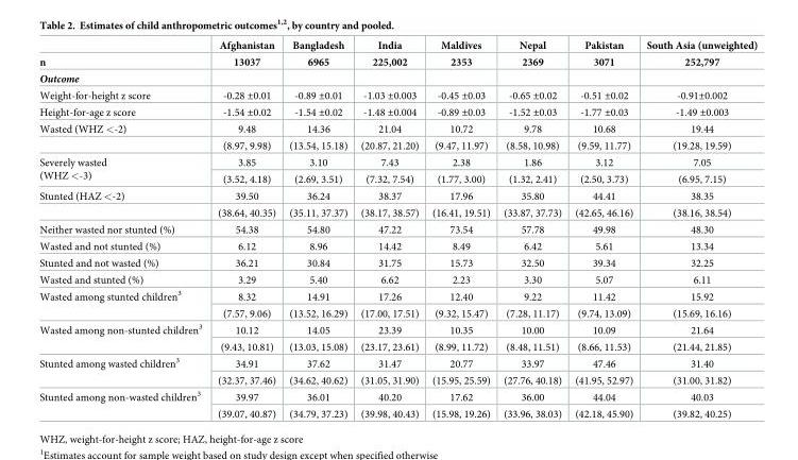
<table><thead><tr><td rowspan="3">n Outcome</td><td rowspan="3">Afghanistan 13037</td><td rowspan="3">Bangladesh 6965</td><td rowspan="3">India 225,002</td><td rowspan="3">Maldives 2353</td><td rowspan="3">Nepal 2369</td><td rowspan="3">Pakistan 3071</td><td rowspan="3">South Asia (unweighted) 252,797</td></tr><tr></tr><tr></tr></thead><tbody><tr><td>Weight-for-height z score</td><td>-0.28 ±0.01</td><td>-0.89 ±0.01</td><td>-1.03 ±0.003</td><td>-0.45 ±0.03</td><td>-0.65 ±0.02</td><td>-0.51 ±0.02</td><td>-0.91±0.002</td></tr><tr><td>Height-for-age z score</td><td>-1.54 ±0.02</td><td>-1.54 ±0.02</td><td>-1.48 ±0.004</td><td>-0.89 ±0.03</td><td>-1.52 ±0.03</td><td>-1.77 ±0.03</td><td>-1.49 ±0.003</td></tr><tr><td rowspan="2">Wasted (WHZ &lt;-2)</td><td>9.48</td><td>14.36</td><td>21.04</td><td>10.72</td><td>9.78</td><td>10.68</td><td>19.44</td></tr><tr><td>(8.97, 9.98)</td><td>(13.54, 15.18)</td><td>(20.87, 21.20)</td><td>(9.47, 11.97)</td><td>(8.58, 10.98)</td><td>(9.59, 11.77)</td><td>(19.28, 19.59)</td></tr><tr><td rowspan="2">Severely wasted (WHZ &lt;-3)</td><td>3.85</td><td>3.10</td><td>7.43</td><td>2.38</td><td>1.86</td><td>3.12</td><td>7.05</td></tr><tr><td>(3.52, 4.18)</td><td>(2.69, 3.51)</td><td>(7.32, 7.54)</td><td>(1.77, 3.00)</td><td>(1.32, 2.41)</td><td>(2.50, 3.73)</td><td>(6.95, 7.15)</td></tr><tr><td rowspan="2">Stunted (HAZ &lt;-2)</td><td>39.50</td><td>36.24</td><td>38.37</td><td>17.96</td><td>35.80</td><td>44.41</td><td>38.35</td></tr><tr><td>(38.64, 40.35)</td><td>(35.11, 37.37)</td><td>(38.17, 38.57)</td><td>(16.41, 19.51)</td><td>(33.87, 37.73)</td><td>(42.65, 46.16)</td><td>(38.16, 38.54)</td></tr><tr><td>Neither wasted nor stunted (%)</td><td>54.38</td><td>54.80</td><td>47.22</td><td>73.54</td><td>57.78</td><td>49.98</td><td>48.30</td></tr><tr><td>Wasted and not stunted (%)</td><td>6.12</td><td>8.96</td><td>14.42</td><td>8.49</td><td>6.42</td><td>5.61</td><td>13.34</td></tr><tr><td>Stunted and not wasted (%)</td><td>36.21</td><td>30.84</td><td>31.75</td><td>15.73</td><td>32.50</td><td>39.34</td><td>32.25</td></tr><tr><td>Wasted and stunted (%)</td><td>3.29</td><td>5.40</td><td>6.62</td><td>2.23</td><td>3.30</td><td>5.07</td><td>6.11</td></tr><tr><td rowspan="2">Wasted among stunted children<sup>3</sup></td><td>8.32</td><td>14.91</td><td>17.26</td><td>12.40</td><td>9.22</td><td>11.42</td><td>15.92</td></tr><tr><td>(7.57, 9.06)</td><td>(13.52, 16.29)</td><td>(17.00, 17.51)</td><td>(9.32, 15.47)</td><td>(7.28, 11.17)</td><td>(9.74, 13.09)</td><td>(15.69, 16.16)</td></tr><tr><td rowspan="2">Wasted among non-stunted children<sup>3</sup></td><td>10.12</td><td>14.05</td><td>23.39</td><td>10.35</td><td>10.00</td><td>10.09</td><td>21.64</td></tr><tr><td>(9.43, 10.81)</td><td>(13.03, 15.08)</td><td>(23.17, 23.61)</td><td>(8.99, 11.72)</td><td>(8.48, 11.51)</td><td>(8.66, 11.53)</td><td>(21.44, 21.85)</td></tr><tr><td rowspan="2">Stunted among wasted children<sup>3</sup></td><td>34.91</td><td>37.62</td><td>31.47</td><td>20.77</td><td>33.97</td><td>47.46</td><td>31.40</td></tr><tr><td>(32.37, 37.46)</td><td>(34.62, 40.62)</td><td>(31.05, 31.90)</td><td>(15.95, 25.59)</td><td>(27.76, 40.18)</td><td>(41.95, 52.97)</td><td>(31.00, 31.82)</td></tr><tr><td rowspan="2">Stunted among non-wasted children<sup>3</sup></td><td>39.97</td><td>36.01</td><td>40.20</td><td>17.62</td><td>36.00</td><td>44.04</td><td>40.03</td></tr><tr><td>(39.07, 40.87)</td><td>(34.79, 37.23)</td><td>(39.98, 40.43)</td><td>(15.98, 19.26)</td><td>(33.96, 38.03)</td><td>(42.18, 45.90)</td><td>(39.82, 40.25)</td></tr></tbody></table>